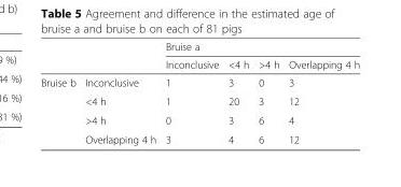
<table><thead><tr><td rowspan="2"></td><td rowspan="2"></td><td colspan="4">Bruise a</td></tr><tr><td>Inconclusive</td><td>&lt;4 h</td><td>&gt;4 h</td><td>Overlapping 4 h</td></tr></thead><tbody><tr><td rowspan="4">Bruise b</td><td>Inconclusive</td><td>1</td><td>3</td><td>0</td><td>3</td></tr><tr><td>&lt;4 h</td><td>1</td><td>20</td><td>3</td><td>12</td></tr><tr><td>&gt;4 h</td><td>0</td><td>3</td><td>6</td><td>4</td></tr><tr><td>Overlapping 4 h</td><td>3</td><td>4</td><td>6</td><td>12</td></tr></tbody></table>